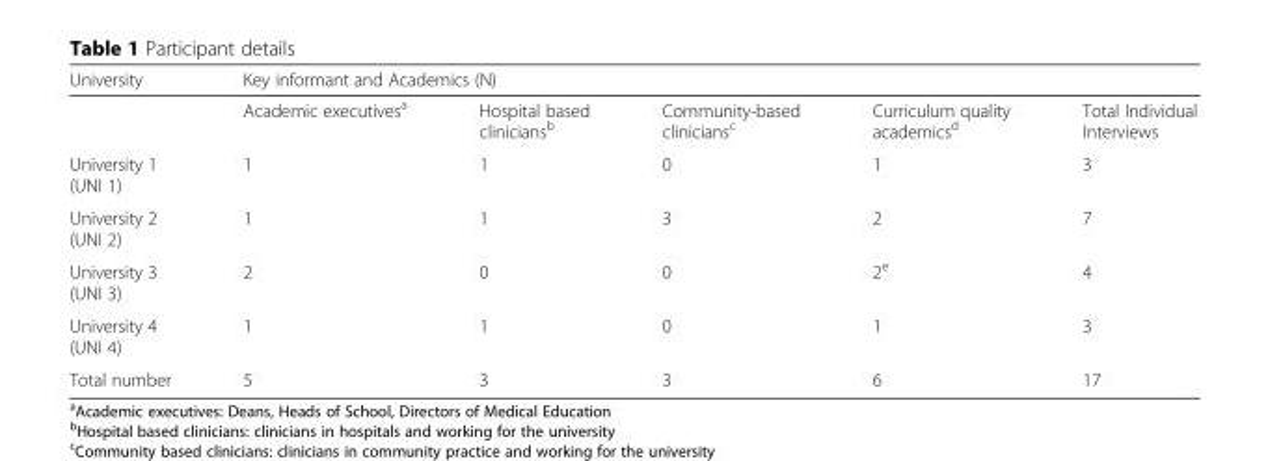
<table><thead><tr><td rowspan="2">University</td><td colspan="5">Key informant and Academics (N)</td></tr><tr><td>Academic executives<sup>a</sup></td><td>Hospital based clinicians<sup>b</sup></td><td>Community-based clinicians<sup>c</sup></td><td>Curriculum quality academics<sup>d</sup></td><td>Total Individual Interviews</td></tr></thead><tbody><tr><td>University 1 (UNI 1)</td><td>1</td><td>1</td><td>0</td><td>1</td><td>3</td></tr><tr><td>University 2 (UNI 2)</td><td>1</td><td>1</td><td>3</td><td>2</td><td>7</td></tr><tr><td>University 3 (UNI 3)</td><td>2</td><td>0</td><td>0</td><td>2<sup>e</sup></td><td>4</td></tr><tr><td>University 4 (UNI 4)</td><td>1</td><td>1</td><td>0</td><td>1</td><td>3</td></tr><tr><td>Total number</td><td>5</td><td>3</td><td>3</td><td>6</td><td>17</td></tr></tbody></table>